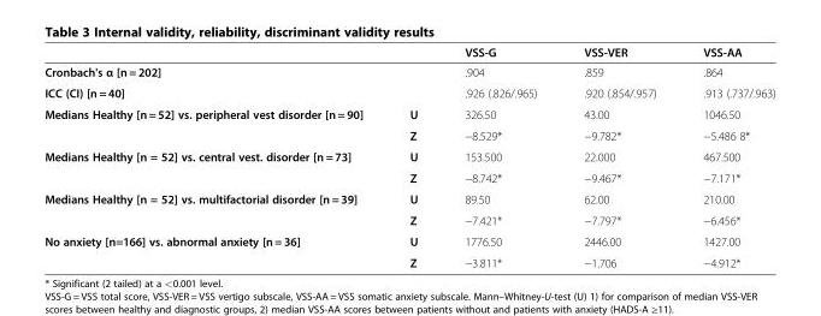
<table><thead><tr><td></td><td></td><td>VSS-G</td><td>VSS-VER</td><td>VSS-AA</td></tr></thead><tbody><tr><td>Cronbach&#x27;s α [n = 202]</td><td></td><td>.904</td><td>.859</td><td>.864</td></tr><tr><td>ICC (CI) [n = 40]</td><td></td><td>.926 (.826/.965)</td><td>.920 (.854/.957)</td><td>.913 (.737/.963)</td></tr><tr><td rowspan="2">Medians Healthy [n = 52] vs. peripheral vest disorder [n = 90]</td><td>U</td><td>326.50</td><td>43.00</td><td>1046.50</td></tr><tr><td>Z</td><td>−8.529*</td><td>−9.782*</td><td>−5.486 8*</td></tr><tr><td rowspan="2">Medians Healthy [n = 52] vs. central vest. disorder [n = 73]</td><td>U</td><td>153.500</td><td>22.000</td><td>467.500</td></tr><tr><td>Z</td><td>−8.742*</td><td>−9.467*</td><td>−7.171*</td></tr><tr><td rowspan="2">Medians Healthy [n = 52] vs. multifactorial disorder [n = 39]</td><td>U</td><td>89.50</td><td>62.00</td><td>210.00</td></tr><tr><td>Z</td><td>−7.421*</td><td>−7.797*</td><td>−6.456*</td></tr><tr><td rowspan="2">No anxiety [n=166] vs. abnormal anxiety [n = 36]</td><td>U</td><td>1776.50</td><td>2446.00</td><td>1427.00</td></tr><tr><td>Z</td><td>−3.811*</td><td>−1.706</td><td>−4.912*</td></tr></tbody></table>